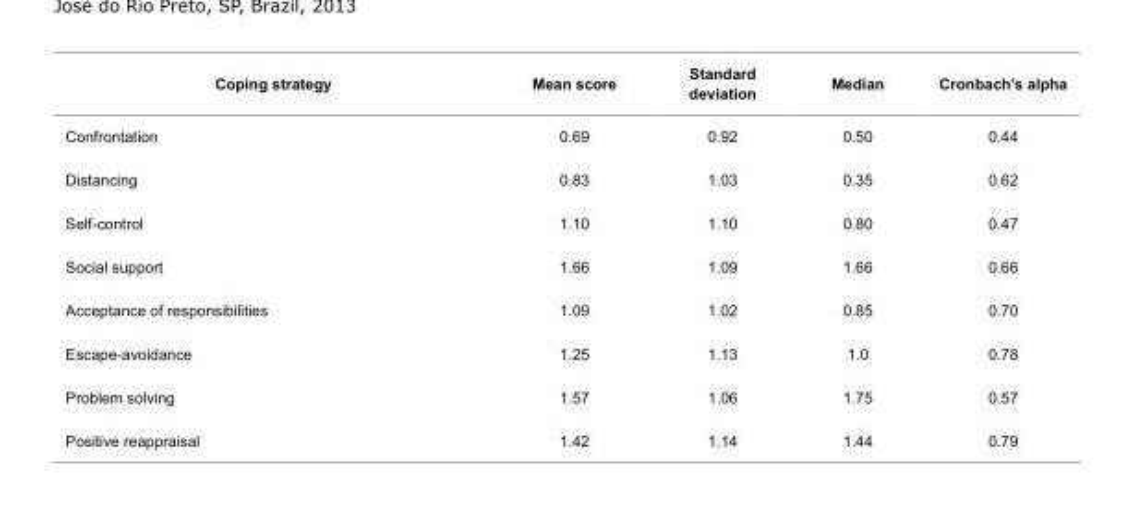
<table><tbody><tr><td>Coping strategy</td><td>Mean score</td><td>Standard deviation</td><td>Median</td><td>Cronbach’s alpha</td></tr><tr><td>Confrontation</td><td>0.69</td><td>0.92</td><td>0.50</td><td>0.44</td></tr><tr><td>Distancing</td><td>0.83</td><td>1.03</td><td>0.35</td><td>0.62</td></tr><tr><td>Self-control</td><td>1.10</td><td>1.10</td><td>0.80</td><td>0.47</td></tr><tr><td>Social support</td><td>1.66</td><td>1.09</td><td>1.66</td><td>0.66</td></tr><tr><td>Acceptance of responsibilities</td><td>1.09</td><td>1.02</td><td>0.85</td><td>0.70</td></tr><tr><td>Escape-avoidance</td><td>1.25</td><td>1.13</td><td>1.0</td><td>0.78</td></tr><tr><td>Problem solving</td><td>1.57</td><td>1.06</td><td>1.75</td><td>0.57</td></tr><tr><td>Positive reappraisal</td><td>1.42</td><td>1.14</td><td>1.44</td><td>0.79</td></tr></tbody></table>